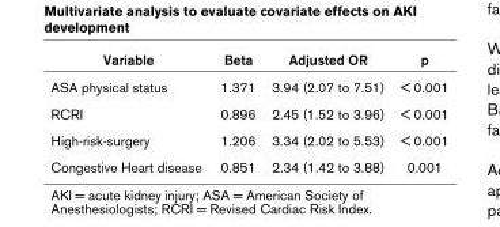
<table><thead><tr><td>Variable</td><td>Beta</td><td>Adjusted OR</td><td>p</td></tr></thead><tbody><tr><td>ASA physical status</td><td>1.371</td><td>3.94 (2.07 to 7.51)</td><td>&lt; 0.001</td></tr><tr><td>RCRI</td><td>0.896</td><td>2.45 (1.52 to 3.96)</td><td>&lt; 0.001</td></tr><tr><td>High-risk-surgery</td><td>1.206</td><td>3.34 (2.02 to 5.53)</td><td>&lt; 0.001</td></tr><tr><td>Congestive Heart disease</td><td>0.851</td><td>2.34 (1.42 to 3.88)</td><td>0.001</td></tr></tbody></table>